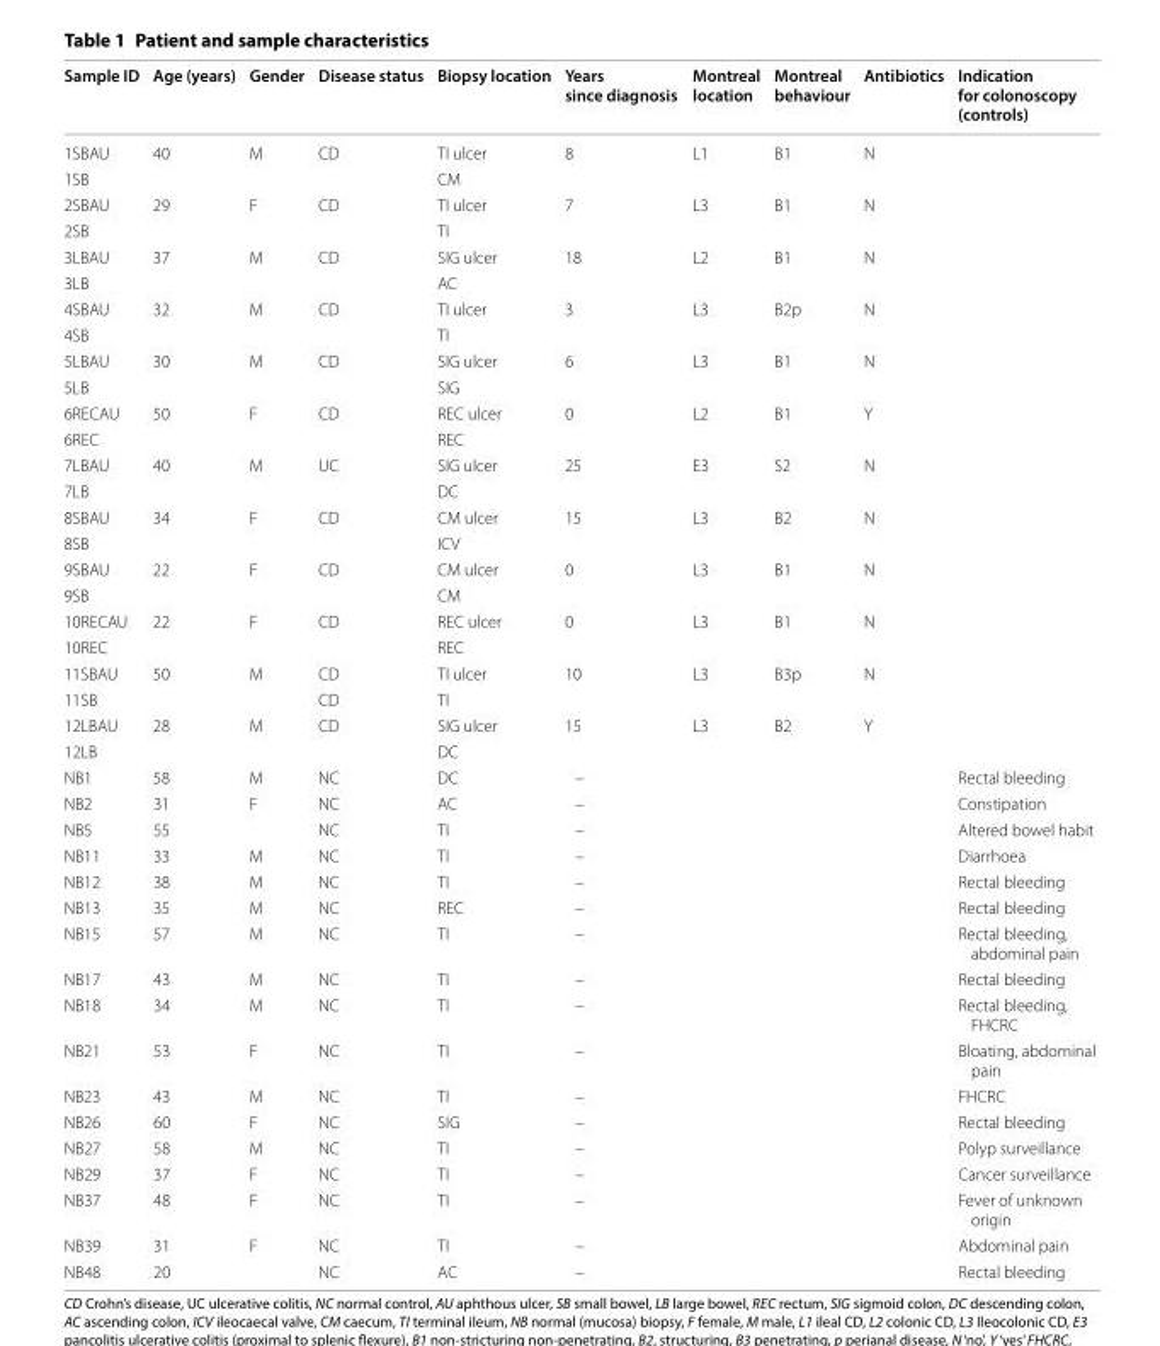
<table><thead><tr><td>Sample ID</td><td>Age (years)</td><td>Gender</td><td>Disease status</td><td>Biopsy location</td><td>Years since diagnosis</td><td>Montreal location</td><td>Montreal behaviour</td><td>Antibiotics</td><td>Indication for colonoscopy (controls)</td></tr></thead><tbody><tr><td>1SBAU</td><td>40</td><td>M</td><td>CD</td><td>TI ulcer</td><td>8</td><td>L1</td><td>B1</td><td>N</td><td></td></tr><tr><td>1SB</td><td></td><td></td><td></td><td>CM</td><td></td><td></td><td></td><td></td><td></td></tr><tr><td>2SBAU</td><td>29</td><td>F</td><td>CD</td><td>TI ulcer</td><td>7</td><td>L3</td><td>B1</td><td>N</td><td></td></tr><tr><td>2SB</td><td></td><td></td><td></td><td>TI</td><td></td><td></td><td></td><td></td><td></td></tr><tr><td>3LBAU</td><td>37</td><td>M</td><td>CD</td><td>SIG ulcer</td><td>18</td><td>L2</td><td>B1</td><td>N</td><td></td></tr><tr><td>3LB</td><td></td><td></td><td></td><td>AC</td><td></td><td></td><td></td><td></td><td></td></tr><tr><td>4SBAU</td><td>32</td><td>M</td><td>CD</td><td>TI ulcer</td><td>3</td><td>L3</td><td>B2p</td><td>N</td><td></td></tr><tr><td>4SB</td><td></td><td></td><td></td><td>TI</td><td></td><td></td><td></td><td></td><td></td></tr><tr><td>5LBAU</td><td>30</td><td>M</td><td>CD</td><td>SIG ulcer</td><td>6</td><td>L3</td><td>B1</td><td>N</td><td></td></tr><tr><td>5LB</td><td></td><td></td><td></td><td>SIG</td><td></td><td></td><td></td><td></td><td></td></tr><tr><td>6RECAU</td><td>50</td><td>F</td><td>CD</td><td>REC ulcer</td><td>0</td><td>L2</td><td>B1</td><td>Y</td><td></td></tr><tr><td>6REC</td><td></td><td></td><td></td><td>REC</td><td></td><td></td><td></td><td></td><td></td></tr><tr><td>7LBAU</td><td>40</td><td>M</td><td>UC</td><td>SIG ulcer</td><td>25</td><td>E3</td><td>S2</td><td>N</td><td></td></tr><tr><td>7LB</td><td></td><td></td><td></td><td>DC</td><td></td><td></td><td></td><td></td><td></td></tr><tr><td>8SBAU</td><td>34</td><td>F</td><td>CD</td><td>CM ulcer</td><td>15</td><td>L3</td><td>B2</td><td>N</td><td></td></tr><tr><td>8SB</td><td></td><td></td><td></td><td>ICV</td><td></td><td></td><td></td><td></td><td></td></tr><tr><td>9SBAU</td><td>22</td><td>F</td><td>CD</td><td>CM ulcer</td><td>0</td><td>L3</td><td>B1</td><td>N</td><td></td></tr><tr><td>9SB</td><td></td><td></td><td></td><td>CM</td><td></td><td></td><td></td><td></td><td></td></tr><tr><td>10RECAU</td><td>22</td><td>F</td><td>CD</td><td>REC ulcer</td><td>0</td><td>L3</td><td>B1</td><td>N</td><td></td></tr><tr><td>10REC</td><td></td><td></td><td></td><td>REC</td><td></td><td></td><td></td><td></td><td></td></tr><tr><td>11SBAU</td><td>50</td><td>M</td><td>CD</td><td>TI ulcer</td><td>10</td><td>L3</td><td>B3p</td><td>N</td><td></td></tr><tr><td>11SB</td><td></td><td></td><td>CD</td><td>TI</td><td></td><td></td><td></td><td></td><td></td></tr><tr><td>12LBAU</td><td>28</td><td>M</td><td>CD</td><td>SIG ulcer</td><td>15</td><td>L3</td><td>B2</td><td>Y</td><td></td></tr><tr><td>12LB</td><td></td><td></td><td></td><td>DC</td><td></td><td></td><td></td><td></td><td></td></tr><tr><td>NB1</td><td>58</td><td>M</td><td>NC</td><td>DC</td><td>–</td><td></td><td></td><td></td><td>Rectal bleeding</td></tr><tr><td>NB2</td><td>31</td><td>F</td><td>NC</td><td>AC</td><td>–</td><td></td><td></td><td></td><td>Constipation</td></tr><tr><td>NB5</td><td>55</td><td></td><td>NC</td><td>TI</td><td>–</td><td></td><td></td><td></td><td>Altered bowel habit</td></tr><tr><td>NB11</td><td>33</td><td>M</td><td>NC</td><td>TI</td><td>–</td><td></td><td></td><td></td><td>Diarrhoea</td></tr><tr><td>NB12</td><td>38</td><td>M</td><td>NC</td><td>TI</td><td>–</td><td></td><td></td><td></td><td>Rectal bleeding</td></tr><tr><td>NB13</td><td>35</td><td>M</td><td>NC</td><td>REC</td><td>–</td><td></td><td></td><td></td><td>Rectal bleeding</td></tr><tr><td>NB15</td><td>57</td><td>M</td><td>NC</td><td>TI</td><td>–</td><td></td><td></td><td></td><td>Rectal bleeding, abdominal pain</td></tr><tr><td>NB17</td><td>43</td><td>M</td><td>NC</td><td>TI</td><td>–</td><td></td><td></td><td></td><td>Rectal bleeding</td></tr><tr><td>NB18</td><td>34</td><td>M</td><td>NC</td><td>TI</td><td>–</td><td></td><td></td><td></td><td>Rectal bleeding, FHCRC</td></tr><tr><td>NB21</td><td>53</td><td>F</td><td>NC</td><td>TI</td><td>–</td><td></td><td></td><td></td><td>Bloating, abdominal pain</td></tr><tr><td>NB23</td><td>43</td><td>M</td><td>NC</td><td>TI</td><td>–</td><td></td><td></td><td></td><td>FHCRC</td></tr><tr><td>NB26</td><td>60</td><td>F</td><td>NC</td><td>SIG</td><td>–</td><td></td><td></td><td></td><td>Rectal bleeding</td></tr><tr><td>NB27</td><td>58</td><td>M</td><td>NC</td><td>TI</td><td>–</td><td></td><td></td><td></td><td>Polyp surveillance</td></tr><tr><td>NB29</td><td>37</td><td>F</td><td>NC</td><td>TI</td><td>–</td><td></td><td></td><td></td><td>Cancer surveillance</td></tr><tr><td>NB37</td><td>48</td><td>F</td><td>NC</td><td>TI</td><td>–</td><td></td><td></td><td></td><td>Fever of unknown origin</td></tr><tr><td>NB39</td><td>31</td><td>F</td><td>NC</td><td>TI</td><td>–</td><td></td><td></td><td></td><td>Abdominal pain</td></tr><tr><td>NB48</td><td>20</td><td></td><td>NC</td><td>AC</td><td>–</td><td></td><td></td><td></td><td>Rectal bleeding</td></tr></tbody></table>